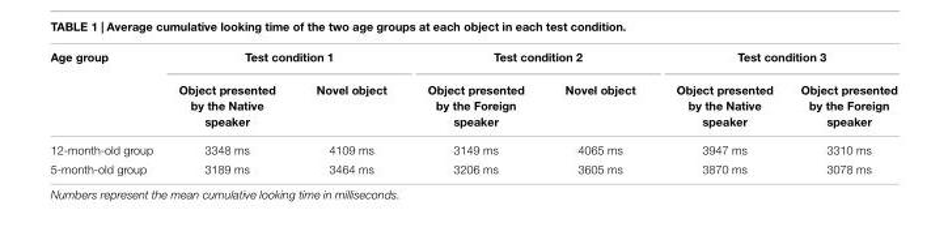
<table><thead><tr><td rowspan="2">Age group</td><td colspan="2">Test condition 1</td><td colspan="2">Test condition 2</td><td colspan="2">Test condition 3</td></tr><tr><td>Object presented by the Native speaker</td><td>Novel object</td><td>Object presented by the Foreign speaker</td><td>Novel object</td><td>Object presented by the Native speaker</td><td>Object presented by the Foreign speaker</td></tr></thead><tbody><tr><td>12-month-old group</td><td>3348 ms</td><td>4109 ms</td><td>3149 ms</td><td>4065 ms</td><td>3947 ms</td><td>3310 ms</td></tr><tr><td>5-month-old group</td><td>3189 ms</td><td>3464 ms</td><td>3206 ms</td><td>3605 ms</td><td>3870 ms</td><td>3078 ms</td></tr></tbody></table>